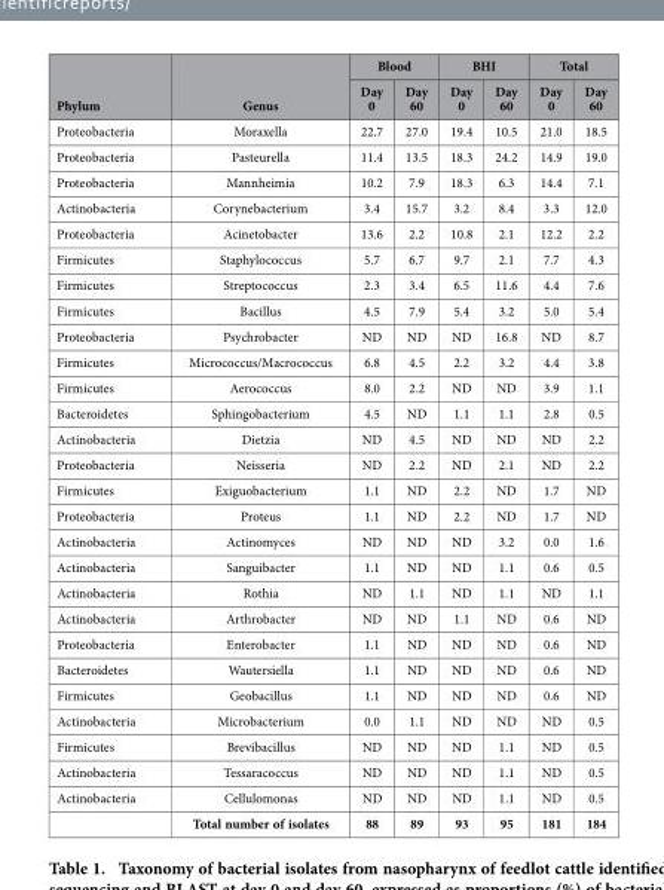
<table><thead><tr><td rowspan="2">Phylum</td><td rowspan="2">Genus</td><td colspan="2">Blood</td><td colspan="2">BHI</td><td colspan="2">Total</td></tr><tr><td>Day 0</td><td>Day 60</td><td>Day 0</td><td>Day 60</td><td>Day 0</td><td>Day 60</td></tr></thead><tbody><tr><td>Proteobacteria</td><td>Moraxella</td><td>22.7</td><td>27.0</td><td>19.4</td><td>10.5</td><td>21.0</td><td>18.5</td></tr><tr><td>Proteobacteria</td><td>Pasteurella</td><td>11.4</td><td>13.5</td><td>18.3</td><td>24.2</td><td>14.9</td><td>19.0</td></tr><tr><td>Proteobacteria</td><td>Mannheimia</td><td>10.2</td><td>7.9</td><td>18.3</td><td>6.3</td><td>14.4</td><td>7.1</td></tr><tr><td>Actinobacteria</td><td>Corynebacterium</td><td>3.4</td><td>15.7</td><td>3.2</td><td>8.4</td><td>3.3</td><td>12.0</td></tr><tr><td>Proteobacteria</td><td>Acinetobacter</td><td>13.6</td><td>2.2</td><td>10.8</td><td>2.1</td><td>12.2</td><td>2.2</td></tr><tr><td>Firmicutes</td><td>Staphylococcus</td><td>5.7</td><td>6.7</td><td>9.7</td><td>2.1</td><td>7.7</td><td>4.3</td></tr><tr><td>Firmicutes</td><td>Streptococcus</td><td>2.3</td><td>3.4</td><td>6.5</td><td>11.6</td><td>4.4</td><td>7.6</td></tr><tr><td>Firmicutes</td><td>Bacillus</td><td>4.5</td><td>7.9</td><td>5.4</td><td>3.2</td><td>5.0</td><td>5.4</td></tr><tr><td>Proteobacteria</td><td>Psychrobacter</td><td>ND</td><td>ND</td><td>ND</td><td>16.8</td><td>ND</td><td>8.7</td></tr><tr><td>Firmicutes</td><td>Micrococcus/Macrococcus</td><td>6.8</td><td>4.5</td><td>2.2</td><td>3.2</td><td>4.4</td><td>3.8</td></tr><tr><td>Firmicutes</td><td>Aerococcus</td><td>8.0</td><td>2.2</td><td>ND</td><td>ND</td><td>3.9</td><td>1.1</td></tr><tr><td>Bacteroidetes</td><td>Sphingobacterium</td><td>4.5</td><td>ND</td><td>1.1</td><td>1.1</td><td>2.8</td><td>0.5</td></tr><tr><td>Actinobacteria</td><td>Dietzia</td><td>ND</td><td>4.5</td><td>ND</td><td>ND</td><td>ND</td><td>2.2</td></tr><tr><td>Proteobacteria</td><td>Neisseria</td><td>ND</td><td>2.2</td><td>ND</td><td>2.1</td><td>ND</td><td>2.2</td></tr><tr><td>Firmicutes</td><td>Exiguobacterium</td><td>1.1</td><td>ND</td><td>2.2</td><td>ND</td><td>1.7</td><td>ND</td></tr><tr><td>Proteobacteria</td><td>Proteus</td><td>1.1</td><td>ND</td><td>2.2</td><td>ND</td><td>1.7</td><td>ND</td></tr><tr><td>Actinobacteria</td><td>Actinomyces</td><td>ND</td><td>ND</td><td>ND</td><td>3.2</td><td>0.0</td><td>1.6</td></tr><tr><td>Actinobacteria</td><td>Sanguibacter</td><td>1.1</td><td>ND</td><td>ND</td><td>1.1</td><td>0.6</td><td>0.5</td></tr><tr><td>Actinobacteria</td><td>Rothia</td><td>ND</td><td>1.1</td><td>ND</td><td>1.1</td><td>ND</td><td>1.1</td></tr><tr><td>Actinobacteria</td><td>Arthrobacter</td><td>ND</td><td>ND</td><td>1.1</td><td>ND</td><td>0.6</td><td>ND</td></tr><tr><td>Proteobacteria</td><td>Enterobacter</td><td>1.1</td><td>ND</td><td>ND</td><td>ND</td><td>0.6</td><td>ND</td></tr><tr><td>Bacteroidetes</td><td>Wautersiella</td><td>1.1</td><td>ND</td><td>ND</td><td>ND</td><td>0.6</td><td>ND</td></tr><tr><td>Firmicutes</td><td>Geobacillus</td><td>1.1</td><td>ND</td><td>ND</td><td>ND</td><td>0.6</td><td>ND</td></tr><tr><td>Actinobacteria</td><td>Microbacterium</td><td>0.0</td><td>1.1</td><td>ND</td><td>ND</td><td>ND</td><td>0.5</td></tr><tr><td>Firmicutes</td><td>Brevibacillus</td><td>ND</td><td>ND</td><td>ND</td><td>1.1</td><td>ND</td><td>0.5</td></tr><tr><td>Actinobacteria</td><td>Tessaracoccus</td><td>ND</td><td>ND</td><td>ND</td><td>1.1</td><td>ND</td><td>0.5</td></tr><tr><td rowspan="2">Actinobacteria</td><td>Cellulomonas</td><td>ND</td><td>ND</td><td>ND</td><td>1.1</td><td>ND</td><td>0.5</td></tr><tr><td>Total number of isolates</td><td>88</td><td>89</td><td>93</td><td>95</td><td>181</td><td>184</td></tr></tbody></table>